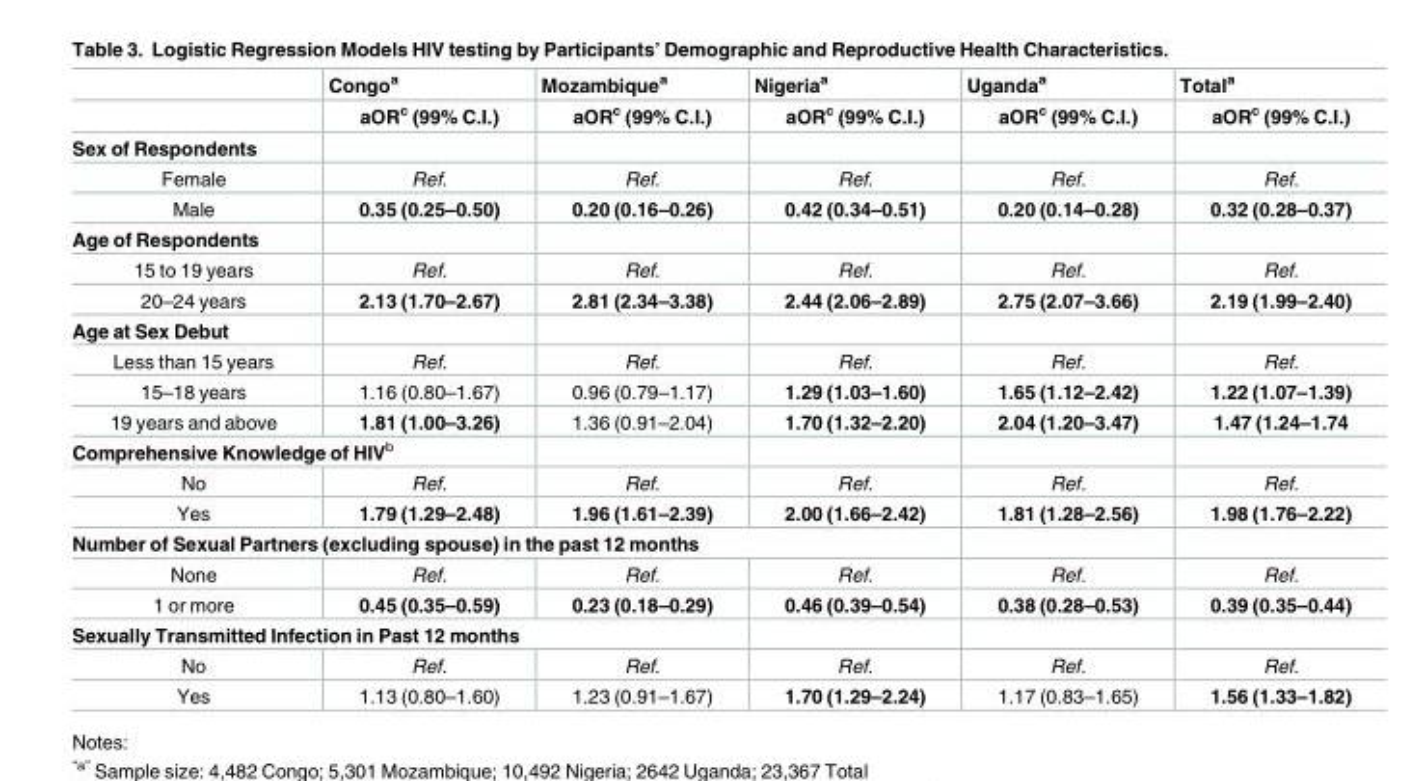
<table><thead><tr><td rowspan="2"></td><td rowspan="2">Congo<sup>a</sup> aOR<sup>c</sup> (99% C.I.)</td><td rowspan="2">Mozambique<sup>a</sup> aOR<sup>c</sup> (99% C.I.)</td><td rowspan="2">Nigeria<sup>a</sup> aOR<sup>c</sup> (99% C.I.)</td><td rowspan="2">Uganda<sup>a</sup> aOR<sup>c</sup> (99% C.I.)</td><td rowspan="2">Total<sup>a</sup> aOR<sup>c</sup> (99% C.I.)</td></tr><tr></tr></thead><tbody><tr><td colspan="6">Sex of Respondents</td></tr><tr><td>Female</td><td>Ref.</td><td>Ref.</td><td>Ref.</td><td>Ref.</td><td>Ref.</td></tr><tr><td>Male</td><td>0.35 (0.25–0.50)</td><td>0.20 (0.16–0.26)</td><td>0.42 (0.34–0.51)</td><td>0.20 (0.14–0.28)</td><td>0.32 (0.28–0.37)</td></tr><tr><td colspan="6">Age of Respondents</td></tr><tr><td>15 to 19 years</td><td>Ref.</td><td>Ref.</td><td>Ref.</td><td>Ref.</td><td>Ref.</td></tr><tr><td>20–24 years</td><td>2.13 (1.70–2.67)</td><td>2.81 (2.34–3.38)</td><td>2.44 (2.06–2.89)</td><td>2.75 (2.07–3.66)</td><td>2.19 (1.99–2.40)</td></tr><tr><td colspan="6">Age at Sex Debut</td></tr><tr><td>Less than 15 years</td><td>Ref.</td><td>Ref.</td><td>Ref.</td><td>Ref.</td><td>Ref.</td></tr><tr><td>15–18 years</td><td>1.16 (0.80–1.67)</td><td>0.96 (0.79–1.17)</td><td>1.29 (1.03–1.60)</td><td>1.65 (1.12–2.42)</td><td>1.22 (1.07–1.39)</td></tr><tr><td>19 years and above</td><td>1.81 (1.00–3.26)</td><td>1.36 (0.91–2.04)</td><td>1.70 (1.32–2.20)</td><td>2.04 (1.20–3.47)</td><td>1.47 (1.24–1.74</td></tr><tr><td colspan="6">Comprehensive Knowledge of HIV<sup>b</sup></td></tr><tr><td>No</td><td>Ref.</td><td>Ref.</td><td>Ref.</td><td>Ref.</td><td>Ref.</td></tr><tr><td>Yes</td><td>1.79 (1.29–2.48)</td><td>1.96 (1.61–2.39)</td><td>2.00 (1.66–2.42)</td><td>1.81 (1.28–2.56)</td><td>1.98 (1.76–2.22)</td></tr><tr><td colspan="6">Number of Sexual Partners (excluding spouse) in the past 12 months</td></tr><tr><td>None</td><td>Ref.</td><td>Ref.</td><td>Ref.</td><td>Ref.</td><td>Ref.</td></tr><tr><td>1 or more</td><td>0.45 (0.35–0.59)</td><td>0.23 (0.18–0.29)</td><td>0.46 (0.39–0.54)</td><td>0.38 (0.28–0.53)</td><td>0.39 (0.35–0.44)</td></tr><tr><td colspan="6">Sexually Transmitted Infection in Past 12 months</td></tr><tr><td>No</td><td>Ref.</td><td>Ref.</td><td>Ref.</td><td>Ref.</td><td>Ref.</td></tr><tr><td>Yes</td><td>1.13 (0.80–1.60)</td><td>1.23 (0.91–1.67)</td><td>1.70 (1.29–2.24)</td><td>1.17 (0.83–1.65)</td><td>1.56 (1.33–1.82)</td></tr></tbody></table>